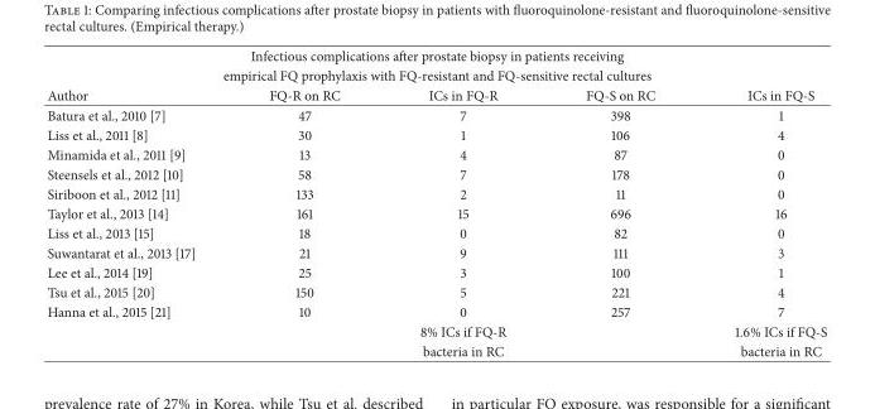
<table><thead><tr><td rowspan="2" colspan="5">Infectious complications after prostate biopsy in patients receiving empirical FQ prophylaxis with FQ-resistant and FQ-sensitive rectal cultures</td></tr><tr></tr><tr><td>Author</td><td>FQ-R on RC</td><td>ICs in FQ-R</td><td>FQ-S on RC</td><td>ICs in FQ-S</td></tr></thead><tbody><tr><td>Batura et al., 2010 [7]</td><td>47</td><td>7</td><td>398</td><td>1</td></tr><tr><td>Liss et al., 2011 [8]</td><td>30</td><td>1</td><td>106</td><td>4</td></tr><tr><td>Minamida et al., 2011 [9]</td><td>13</td><td>4</td><td>87</td><td>0</td></tr><tr><td>Steensels et al., 2012 [10]</td><td>58</td><td>7</td><td>178</td><td>0</td></tr><tr><td>Siriboon et al., 2012 [11]</td><td>133</td><td>2</td><td>11</td><td>0</td></tr><tr><td>Taylor et al., 2013 [14]</td><td>161</td><td>15</td><td>696</td><td>16</td></tr><tr><td>Liss et al., 2013 [15]</td><td>18</td><td>0</td><td>82</td><td>0</td></tr><tr><td>Suwantarat et al., 2013 [17]</td><td>21</td><td>9</td><td>111</td><td>3</td></tr><tr><td>Lee et al., 2014 [19]</td><td>25</td><td>3</td><td>100</td><td>1</td></tr><tr><td>Tsu et al., 2015 [20]</td><td>150</td><td>5</td><td>221</td><td>4</td></tr><tr><td rowspan="3">Hanna et al., 2015 [21]</td><td>10</td><td>0</td><td>257</td><td>7</td></tr><tr><td></td><td>8% ICs if FQ-R</td><td></td><td>1.6% ICs if FQ-S</td></tr><tr><td></td><td>bacteria in RC</td><td></td><td>bacteria in RC</td></tr></tbody></table>